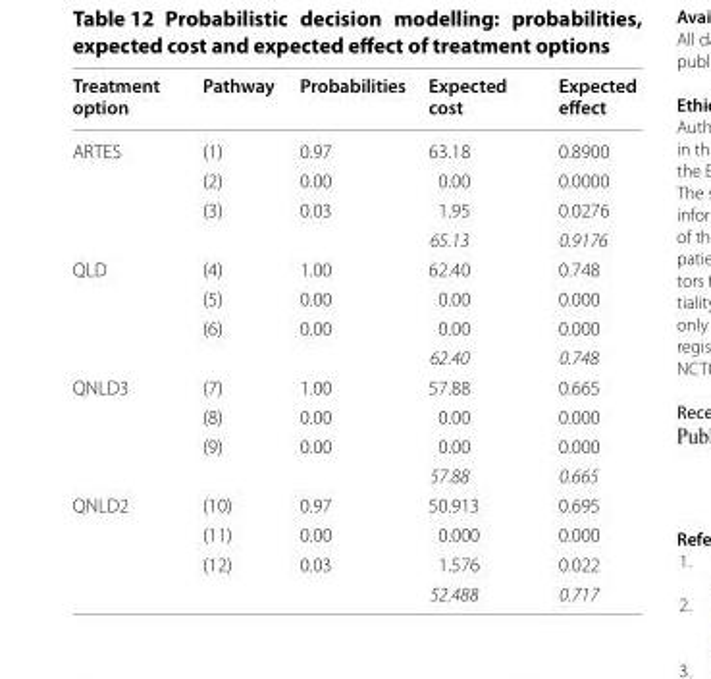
<table><thead><tr><td>Treatment option</td><td>Pathway</td><td>Probabilities</td><td>Expected cost</td><td>Expected effect</td></tr></thead><tbody><tr><td rowspan="3">ARTES</td><td>(1)</td><td>0.97</td><td>63.18</td><td>0.8900</td></tr><tr><td>(2)</td><td>0.00</td><td>0.00</td><td>0.0000</td></tr><tr><td>(3)</td><td>0.03</td><td>1.95</td><td>0.0276</td></tr><tr><td colspan="3"></td><td>65.13</td><td>0.9176</td></tr><tr><td rowspan="3">QLD</td><td>(4)</td><td>1.00</td><td>62.40</td><td>0.748</td></tr><tr><td>(5)</td><td>0.00</td><td>0.00</td><td>0.000</td></tr><tr><td>(6)</td><td>0.00</td><td>0.00</td><td>0.000</td></tr><tr><td colspan="3"></td><td>62.40</td><td>0.748</td></tr><tr><td rowspan="3">QNLD3</td><td>(7)</td><td>1.00</td><td>57.88</td><td>0.665</td></tr><tr><td>(8)</td><td>0.00</td><td>0.00</td><td>0.000</td></tr><tr><td>(9)</td><td>0.00</td><td>0.00</td><td>0.000</td></tr><tr><td colspan="3"></td><td>57.88</td><td>0.665</td></tr><tr><td rowspan="3">QNLD2</td><td>(10)</td><td>0.97</td><td>50.913</td><td>0.695</td></tr><tr><td>(11)</td><td>0.00</td><td>0.000</td><td>0.000</td></tr><tr><td>(12)</td><td>0.03</td><td>1.576</td><td>0.022</td></tr><tr><td colspan="3"></td><td>52.488</td><td>0.717</td></tr></tbody></table>